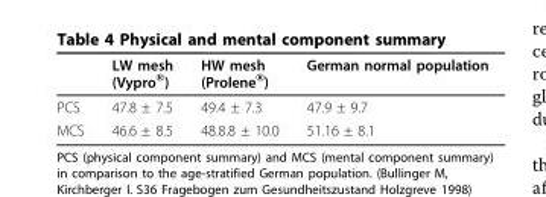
<table><thead><tr><td></td><td>LW mesh (Vypro<sup>®</sup>)</td><td>HW mesh (Prolene<sup>®</sup>)</td><td>German normal population</td></tr></thead><tbody><tr><td>PCS</td><td>47.8 ± 7.5</td><td>49.4 ± 7.3</td><td>47.9 ± 9.7</td></tr><tr><td>MCS</td><td>46.6 ± 8.5</td><td>48.8.8 ± 10.0</td><td>51.16 ± 8.1</td></tr></tbody></table>